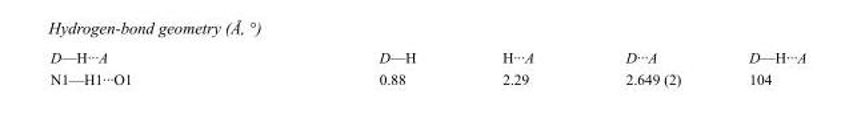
<table><tbody><tr><td>D—H···A</td><td>D—H</td><td>H···A</td><td>D···A</td><td>D—H···A</td></tr><tr><td>N1—H1···O1</td><td>0.88</td><td>2.29</td><td>2.649 (2)</td><td>104</td></tr></tbody></table>